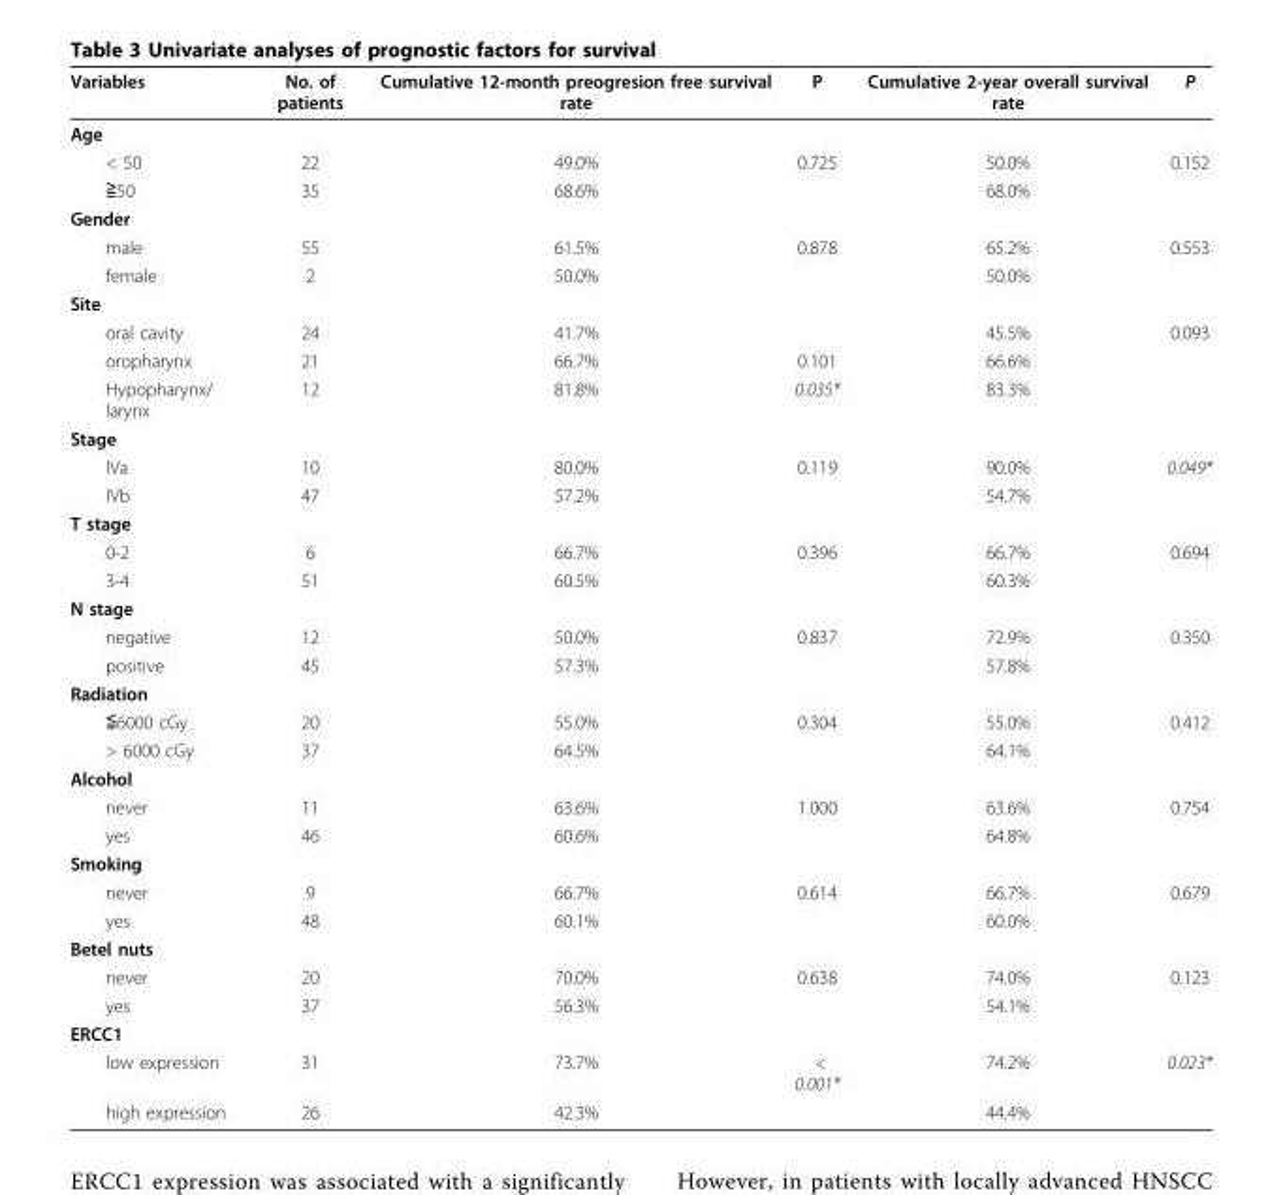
<table><thead><tr><td>Variables</td><td>No. of patients</td><td>Cumulative 12-month preogresion free survival rate</td><td>P</td><td>Cumulative 2-year overall survival rate</td><td>P</td></tr></thead><tbody><tr><td colspan="6">Age</td></tr><tr><td>&lt; 50</td><td>22</td><td>49.0%</td><td>0.725</td><td>50.0%</td><td>0.152</td></tr><tr><td>≧50</td><td>35</td><td>68.6%</td><td></td><td>68.0%</td><td></td></tr><tr><td colspan="6">Gender</td></tr><tr><td>male</td><td>55</td><td>61.5%</td><td>0.878</td><td>65.2%</td><td>0.553</td></tr><tr><td>female</td><td>2</td><td>50.0%</td><td></td><td>50.0%</td><td></td></tr><tr><td colspan="6">Site</td></tr><tr><td>oral cavity</td><td>24</td><td>41.7%</td><td></td><td>45.5%</td><td>0.093</td></tr><tr><td>oropharynx</td><td>21</td><td>66.7%</td><td>0.101</td><td>66.6%</td><td></td></tr><tr><td>Hypopharynx/ larynx</td><td>12</td><td>81.8%</td><td>0.035*</td><td>83.3%</td><td></td></tr><tr><td colspan="6">Stage</td></tr><tr><td>IVa</td><td>10</td><td>80.0%</td><td>0.119</td><td>90.0%</td><td>0.049*</td></tr><tr><td>IVb</td><td>47</td><td>57.2%</td><td></td><td>54.7%</td><td></td></tr><tr><td colspan="6">T stage</td></tr><tr><td>0-2</td><td>6</td><td>66.7%</td><td>0.396</td><td>66.7%</td><td>0.694</td></tr><tr><td>3-4</td><td>51</td><td>60.5%</td><td></td><td>60.3%</td><td></td></tr><tr><td colspan="6">N stage</td></tr><tr><td>negative</td><td>12</td><td>50.0%</td><td>0.837</td><td>72.9%</td><td>0.350</td></tr><tr><td>positive</td><td>45</td><td>57.3%</td><td></td><td>57.8%</td><td></td></tr><tr><td colspan="6">Radiation</td></tr><tr><td>≦6000 cGy</td><td>20</td><td>55.0%</td><td>0.304</td><td>55.0%</td><td>0.412</td></tr><tr><td>&gt; 6000 cGy</td><td>37</td><td>64.5%</td><td></td><td>64.1%</td><td></td></tr><tr><td colspan="6">Alcohol</td></tr><tr><td>never</td><td>11</td><td>63.6%</td><td>1.000</td><td>63.6%</td><td>0.754</td></tr><tr><td>yes</td><td>46</td><td>60.6%</td><td></td><td>64.8%</td><td></td></tr><tr><td colspan="6">Smoking</td></tr><tr><td>never</td><td>9</td><td>66.7%</td><td>0.614</td><td>66.7%</td><td>0.679</td></tr><tr><td>yes</td><td>48</td><td>60.1%</td><td></td><td>60.0%</td><td></td></tr><tr><td colspan="6">Betel nuts</td></tr><tr><td>never</td><td>20</td><td>70.0%</td><td>0.638</td><td>74.0%</td><td>0.123</td></tr><tr><td>yes</td><td>37</td><td>56.3%</td><td></td><td>54.1%</td><td></td></tr><tr><td colspan="6">ERCC1</td></tr><tr><td>low expression</td><td>31</td><td>73.7%</td><td>&lt; 0.001*</td><td>74.2%</td><td>0.023*</td></tr><tr><td>high expression</td><td>26</td><td>42.3%</td><td></td><td>44.4%</td><td></td></tr></tbody></table>